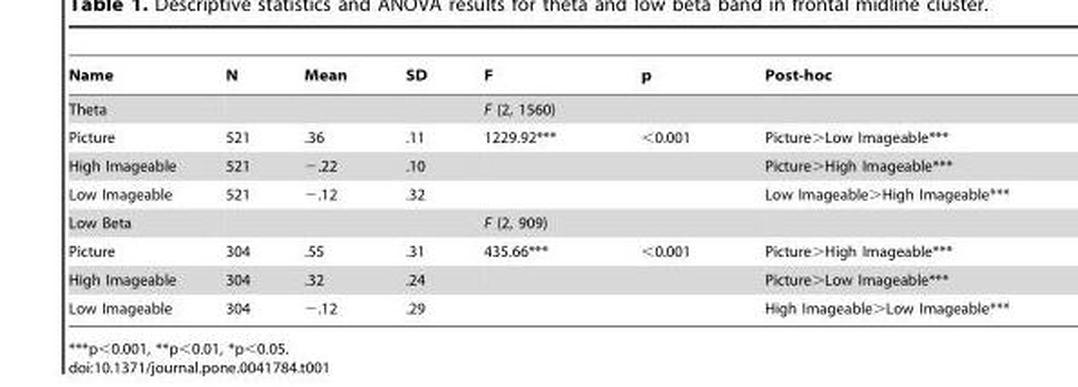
<table><thead><tr><td>Name</td><td>N</td><td>Mean</td><td>SD</td><td>F</td><td>p</td><td>Post-hoc</td></tr></thead><tbody><tr><td>Theta</td><td></td><td></td><td></td><td>F (2, 1560)</td><td></td><td></td></tr><tr><td>Picture</td><td>521</td><td>.36</td><td>.11</td><td>1229.92***</td><td>&lt;0.001</td><td>Picture&gt;Low Imageable***</td></tr><tr><td>High Imageable</td><td>521</td><td>−.22</td><td>.10</td><td></td><td></td><td>Picture&gt;High Imageable***</td></tr><tr><td>Low Imageable</td><td>521</td><td>−.12</td><td>.32</td><td></td><td></td><td>Low Imageable&gt;High Imageable***</td></tr><tr><td>Low Beta</td><td></td><td></td><td></td><td>F (2, 909)</td><td></td><td></td></tr><tr><td>Picture</td><td>304</td><td>.55</td><td>.31</td><td>435.66***</td><td>&lt;0.001</td><td>Picture&gt;High Imageable***</td></tr><tr><td>High Imageable</td><td>304</td><td>.32</td><td>.24</td><td></td><td></td><td>Picture&gt;Low Imageable***</td></tr><tr><td>Low Imageable</td><td>304</td><td>−.12</td><td>.29</td><td></td><td></td><td>High Imageable&gt;Low Imageable***</td></tr></tbody></table>